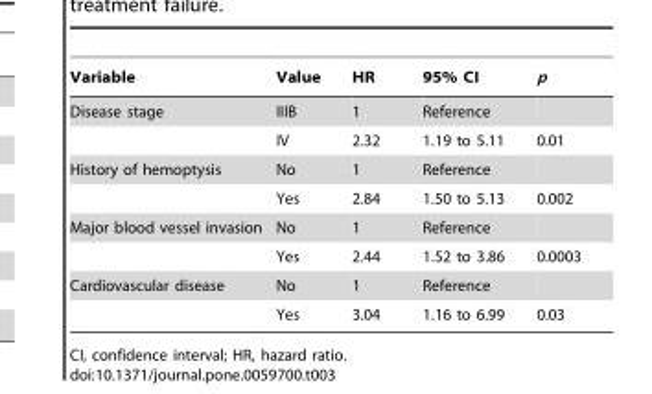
<table><thead><tr><td>Variable</td><td>Value</td><td>HR</td><td>95% CI</td><td>p</td></tr></thead><tbody><tr><td rowspan="2">Disease stage</td><td>IIIB</td><td>1</td><td>Reference</td><td></td></tr><tr><td>IV</td><td>2.32</td><td>1.19 to 5.11</td><td>0.01</td></tr><tr><td rowspan="2">History of hemoptysis</td><td>No</td><td>1</td><td>Reference</td><td></td></tr><tr><td>Yes</td><td>2.84</td><td>1.50 to 5.13</td><td>0.002</td></tr><tr><td rowspan="2">Major blood vessel invasion</td><td>No</td><td>1</td><td>Reference</td><td></td></tr><tr><td>Yes</td><td>2.44</td><td>1.52 to 3.86</td><td>0.0003</td></tr><tr><td rowspan="2">Cardiovascular disease</td><td>No</td><td>1</td><td>Reference</td><td></td></tr><tr><td>Yes</td><td>3.04</td><td>1.16 to 6.99</td><td>0.03</td></tr></tbody></table>